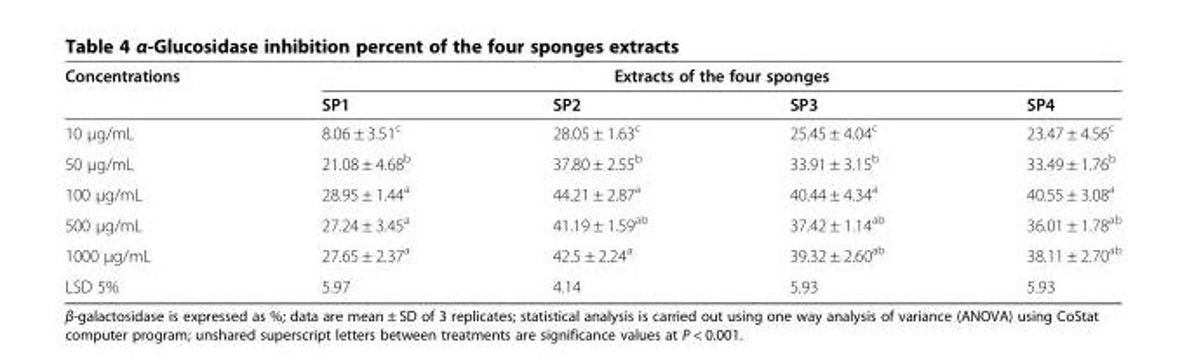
<table><thead><tr><td rowspan="2">Concentrations</td><td colspan="4">Extracts of the four sponges</td></tr><tr><td>SP1</td><td>SP2</td><td>SP3</td><td>SP4</td></tr></thead><tbody><tr><td>10 μg/mL</td><td>8.06 ± 3.51<sup>c</sup></td><td>28.05 ± 1.63<sup>c</sup></td><td>25.45 ± 4.04<sup>c</sup></td><td>23.47 ± 4.56<sup>c</sup></td></tr><tr><td>50 μg/mL</td><td>21.08 ± 4.68<sup>b</sup></td><td>37.80 ± 2.55<sup>b</sup></td><td>33.91 ± 3.15<sup>b</sup></td><td>33.49 ± 1.76<sup>b</sup></td></tr><tr><td>100 μg/mL</td><td>28.95 ± 1.44<sup>a</sup></td><td>44.21 ± 2.87<sup>a</sup></td><td>40.44 ± 4.34<sup>a</sup></td><td>40.55 ± 3.08<sup>a</sup></td></tr><tr><td>500 μg/mL</td><td>27.24 ± 3.45<sup>a</sup></td><td>41.19 ± 1.59<sup>ab</sup></td><td>37.42 ± 1.14<sup>ab</sup></td><td>36.01 ± 1.78<sup>ab</sup></td></tr><tr><td>1000 μg/mL</td><td>27.65 ± 2.37<sup>a</sup></td><td>42.5 ± 2.24<sup>a</sup></td><td>39.32 ± 2.60<sup>ab</sup></td><td>38.11 ± 2.70<sup>ab</sup></td></tr><tr><td>LSD 5%</td><td>5.97</td><td>4.14</td><td>5.93</td><td>5.93</td></tr></tbody></table>